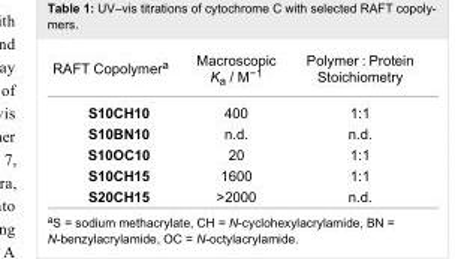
<table><tbody><tr><td>RAFT Copolymer<sup>a</sup></td><td>Macroscopic K<sub>a</sub> / M<sup>−1</sup></td><td>Polymer : Protein Stoichiometry</td></tr><tr><td>S10CH10</td><td>400</td><td>1:1</td></tr><tr><td>S10BN10</td><td>n.d.</td><td>n.d.</td></tr><tr><td>S10OC10</td><td>20</td><td>1:1</td></tr><tr><td>S10CH15</td><td>1600</td><td>1:1</td></tr><tr><td>S20CH15</td><td>&gt;2000</td><td>n.d.</td></tr></tbody></table>